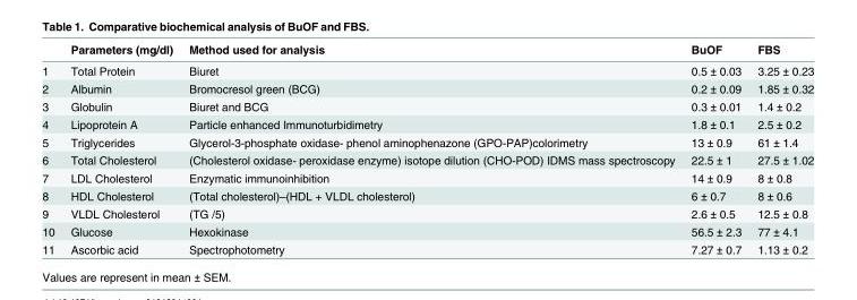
<table><thead><tr><td></td><td>Parameters (mg/dl)</td><td>Method used for analysis</td><td>BuOF</td><td>FBS</td></tr></thead><tbody><tr><td>1</td><td>Total Protein</td><td>Biuret</td><td>0.5 ± 0.03</td><td>3.25 ± 0.23</td></tr><tr><td>2</td><td>Albumin</td><td>Bromocresol green (BCG)</td><td>0.2 ± 0.09</td><td>1.85 ± 0.32</td></tr><tr><td>3</td><td>Globulin</td><td>Biuret and BCG</td><td>0.3 ± 0.01</td><td>1.4 ± 0.2</td></tr><tr><td>4</td><td>Lipoprotein A</td><td>Particle enhanced Immunoturbidimetry</td><td>1.8 ± 0.1</td><td>2.5 ± 0.2</td></tr><tr><td>5</td><td>Triglycerides</td><td>Glycerol-3-phosphate oxidase- phenol aminophenazone (GPO-PAP)colorimetry</td><td>13 ± 0.9</td><td>61 ± 1.4</td></tr><tr><td>6</td><td>Total Cholesterol</td><td>(Cholesterol oxidase- peroxidase enzyme) isotope dilution (CHO-POD) IDMS mass spectroscopy</td><td>22.5 ± 1</td><td>27.5 ± 1.02</td></tr><tr><td>7</td><td>LDL Cholesterol</td><td>Enzymatic immunoinhibition</td><td>14 ± 0.9</td><td>8 ± 0.8</td></tr><tr><td>8</td><td>HDL Cholesterol</td><td>(Total cholesterol)–(HDL + VLDL cholesterol)</td><td>6 ± 0.7</td><td>8 ± 0.6</td></tr><tr><td>9</td><td>VLDL Cholesterol</td><td>(TG /5)</td><td>2.6 ± 0.5</td><td>12.5 ± 0.8</td></tr><tr><td>10</td><td>Glucose</td><td>Hexokinase</td><td>56.5 ± 2.3</td><td>77 ± 4.1</td></tr><tr><td>11</td><td>Ascorbic acid</td><td>Spectrophotometry</td><td>7.27 ± 0.7</td><td>1.13 ± 0.2</td></tr></tbody></table>